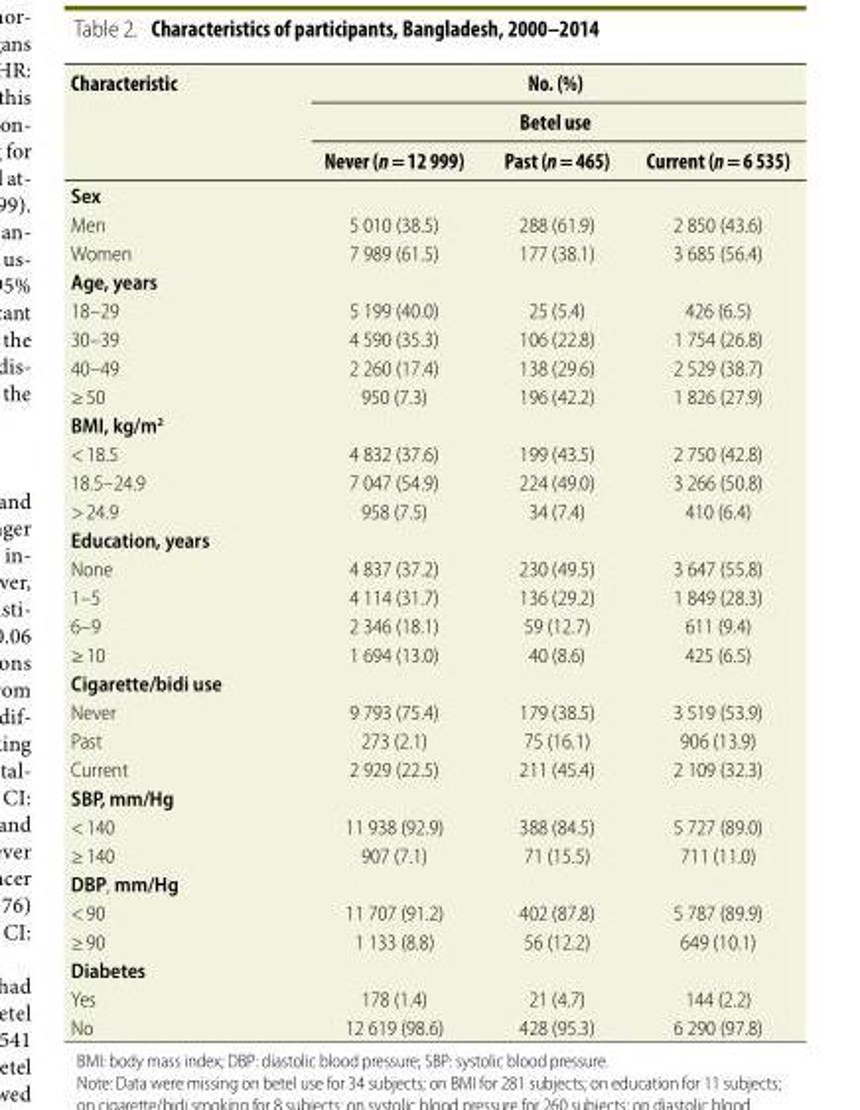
<table><thead><tr><td rowspan="3">Characteristic</td><td rowspan="2" colspan="3">No. (%) Betel use</td></tr><tr></tr><tr><td>Never (n = 12 999)</td><td>Past (n = 465)</td><td>Current (n = 6 535)</td></tr></thead><tbody><tr><td colspan="4">Sex</td></tr><tr><td>Men</td><td>5 010 (38.5)</td><td>288 (61.9)</td><td>2 850 (43.6)</td></tr><tr><td>Women</td><td>7 989 (61.5)</td><td>177 (38.1)</td><td>3 685 (56.4)</td></tr><tr><td colspan="4">Age, years</td></tr><tr><td>18–29</td><td>5 199 (40.0)</td><td>25 (5.4)</td><td>426 (6.5)</td></tr><tr><td>30–39</td><td>4 590 (35.3)</td><td>106 (22.8)</td><td>1 754 (26.8)</td></tr><tr><td>40–49</td><td>2 260 (17.4)</td><td>138 (29.6)</td><td>2 529 (38.7)</td></tr><tr><td>≥ 50</td><td>950 (7.3)</td><td>196 (42.2)</td><td>1 826 (27.9)</td></tr><tr><td colspan="4">BMI, kg/m<sup>2</sup></td></tr><tr><td>&lt; 18.5</td><td>4 832 (37.6)</td><td>199 (43.5)</td><td>2 750 (42.8)</td></tr><tr><td>18.5–24.9</td><td>7 047 (54.9)</td><td>224 (49.0)</td><td>3 266 (50.8)</td></tr><tr><td>&gt; 24.9</td><td>958 (7.5)</td><td>34 (7.4)</td><td>410 (6.4)</td></tr><tr><td colspan="4">Education, years</td></tr><tr><td>None</td><td>4 837 (37.2)</td><td>230 (49.5)</td><td>3 647 (55.8)</td></tr><tr><td>1–5</td><td>4 114 (31.7)</td><td>136 (29.2)</td><td>1 849 (28.3)</td></tr><tr><td>6–9</td><td>2 346 (18.1)</td><td>59 (12.7)</td><td>611 (9.4)</td></tr><tr><td>≥ 10</td><td>1 694 (13.0)</td><td>40 (8.6)</td><td>425 (6.5)</td></tr><tr><td colspan="4">Cigarette/bidi use</td></tr><tr><td>Never</td><td>9 793 (75.4)</td><td>179 (38.5)</td><td>3 519 (53.9)</td></tr><tr><td>Past</td><td>273 (2.1)</td><td>75 (16.1)</td><td>906 (13.9)</td></tr><tr><td>Current</td><td>2 929 (22.5)</td><td>211 (45.4)</td><td>2 109 (32.3)</td></tr><tr><td colspan="4">SBP, mm/Hg</td></tr><tr><td>&lt; 140</td><td>11 938 (92.9)</td><td>388 (84.5)</td><td>5 727 (89.0)</td></tr><tr><td>≥ 140</td><td>907 (7.1)</td><td>71 (15.5)</td><td>711 (11.0)</td></tr><tr><td colspan="4">DBP, mm/Hg</td></tr><tr><td>&lt; 90</td><td>11 707 (91.2)</td><td>402 (87.8)</td><td>5 787 (89.9)</td></tr><tr><td>≥ 90</td><td>1 133 (8.8)</td><td>56 (12.2)</td><td>649 (10.1)</td></tr><tr><td colspan="4">Diabetes</td></tr><tr><td>Yes</td><td>178 (1.4)</td><td>21 (4.7)</td><td>144 (2.2)</td></tr><tr><td>No</td><td>12 619 (98.6)</td><td>428 (95.3)</td><td>6 290 (97.8)</td></tr></tbody></table>